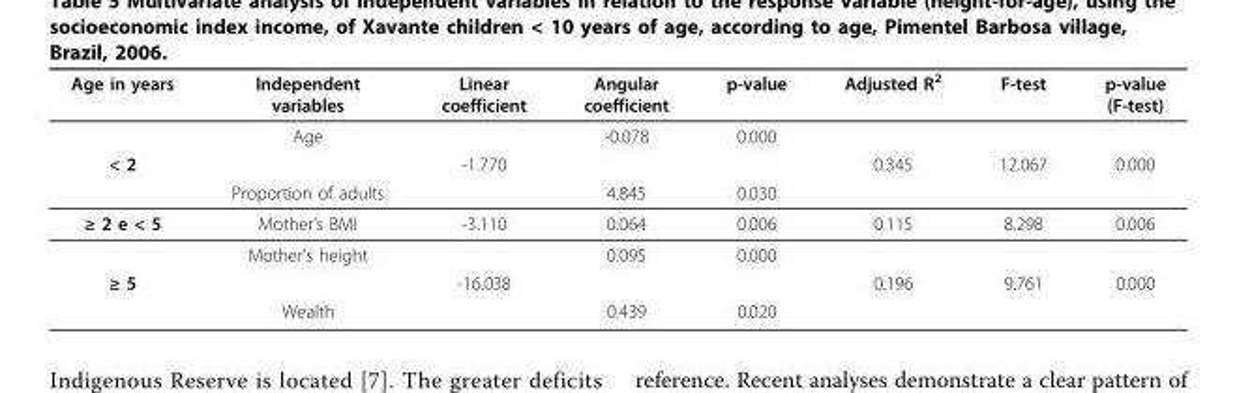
<table><thead><tr><td>Age in years</td><td>Independent variables</td><td>Linear coefficient</td><td>Angular coefficient</td><td>p-value</td><td>Adjusted R<sup>2</sup></td><td>F-test</td><td>p-value (F-test)</td></tr></thead><tbody><tr><td></td><td>Age</td><td></td><td>-0.078</td><td>0.000</td><td></td><td></td><td></td></tr><tr><td rowspan="2">&lt; 2</td><td></td><td>-1.770</td><td></td><td></td><td>0.345</td><td>12.067</td><td>0.000</td></tr><tr><td>Proportion of adults</td><td></td><td>4.845</td><td>0.030</td><td></td><td></td><td></td></tr><tr><td rowspan="2">≥ 2 e &lt; 5</td><td>Mother’s BMI</td><td>-3.110</td><td>0.064</td><td>0.006</td><td>0.115</td><td>8.298</td><td>0.006</td></tr><tr><td>Mother’s height</td><td></td><td>0.095</td><td>0.000</td><td></td><td></td><td></td></tr><tr><td rowspan="2">≥ 5</td><td></td><td>-16.038</td><td></td><td></td><td>0.196</td><td>9.761</td><td>0.000</td></tr><tr><td>Wealth</td><td></td><td>0.439</td><td>0.020</td><td></td><td></td><td></td></tr></tbody></table>